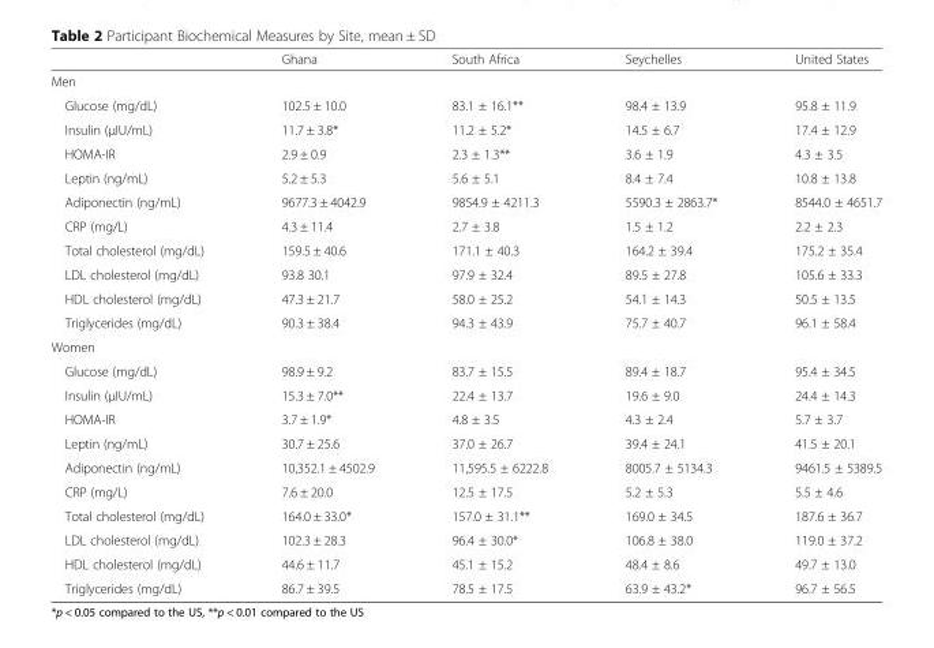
<table><thead><tr><td></td><td>Ghana</td><td>South Africa</td><td>Seychelles</td><td>United States</td></tr></thead><tbody><tr><td colspan="5">Men</td></tr><tr><td>Glucose (mg/dL)</td><td>102.5 ± 10.0</td><td>83.1 ± 16.1**</td><td>98.4 ± 13.9</td><td>95.8 ± 11.9</td></tr><tr><td>Insulin (μIU/mL)</td><td>11.7 ± 3.8*</td><td>11.2 ± 5.2*</td><td>14.5 ± 6.7</td><td>17.4 ± 12.9</td></tr><tr><td>HOMA-IR</td><td>2.9 ± 0.9</td><td>2.3 ± 1.3**</td><td>3.6 ± 1.9</td><td>4.3 ± 3.5</td></tr><tr><td>Leptin (ng/mL)</td><td>5.2 ± 5.3</td><td>5.6 ± 5.1</td><td>8.4 ± 7.4</td><td>10.8 ± 13.8</td></tr><tr><td>Adiponectin (ng/mL)</td><td>9677.3 ± 4042.9</td><td>9854.9 ± 4211.3</td><td>5590.3 ± 2863.7*</td><td>8544.0 ± 4651.7</td></tr><tr><td>CRP (mg/L)</td><td>4.3 ± 11.4</td><td>2.7 ± 3.8</td><td>1.5 ± 1.2</td><td>2.2 ± 2.3</td></tr><tr><td>Total cholesterol (mg/dL)</td><td>159.5 ± 40.6</td><td>171.1 ± 40.3</td><td>164.2 ± 39.4</td><td>175.2 ± 35.4</td></tr><tr><td>LDL cholesterol (mg/dL)</td><td>93.8 30.1</td><td>97.9 ± 32.4</td><td>89.5 ± 27.8</td><td>105.6 ± 33.3</td></tr><tr><td>HDL cholesterol (mg/dL)</td><td>47.3 ± 21.7</td><td>58.0 ± 25.2</td><td>54.1 ± 14.3</td><td>50.5 ± 13.5</td></tr><tr><td>Triglycerides (mg/dL)</td><td>90.3 ± 38.4</td><td>94.3 ± 43.9</td><td>75.7 ± 40.7</td><td>96.1 ± 58.4</td></tr><tr><td colspan="5">Women</td></tr><tr><td>Glucose (mg/dL)</td><td>98.9 ± 9.2</td><td>83.7 ± 15.5</td><td>89.4 ± 18.7</td><td>95.4 ± 34.5</td></tr><tr><td>Insulin (μIU/mL)</td><td>15.3 ± 7.0**</td><td>22.4 ± 13.7</td><td>19.6 ± 9.0</td><td>24.4 ± 14.3</td></tr><tr><td>HOMA-IR</td><td>3.7 ± 1.9*</td><td>4.8 ± 3.5</td><td>4.3 ± 2.4</td><td>5.7 ± 3.7</td></tr><tr><td>Leptin (ng/mL)</td><td>30.7 ± 25.6</td><td>37.0 ± 26.7</td><td>39.4 ± 24.1</td><td>41.5 ± 20.1</td></tr><tr><td>Adiponectin (ng/mL)</td><td>10,352.1 ± 4502.9</td><td>11,595.5 ± 6222.8</td><td>8005.7 ± 5134.3</td><td>9461.5 ± 5389.5</td></tr><tr><td>CRP (mg/L)</td><td>7.6 ± 20.0</td><td>12.5 ± 17.5</td><td>5.2 ± 5.3</td><td>5.5 ± 4.6</td></tr><tr><td>Total cholesterol (mg/dL)</td><td>164.0 ± 33.0*</td><td>157.0 ± 31.1**</td><td>169.0 ± 34.5</td><td>187.6 ± 36.7</td></tr><tr><td>LDL cholesterol (mg/dL)</td><td>102.3 ± 28.3</td><td>96.4 ± 30.0*</td><td>106.8 ± 38.0</td><td>119.0 ± 37.2</td></tr><tr><td>HDL cholesterol (mg/dL)</td><td>44.6 ± 11.7</td><td>45.1 ± 15.2</td><td>48.4 ± 8.6</td><td>49.7 ± 13.0</td></tr><tr><td>Triglycerides (mg/dL)</td><td>86.7 ± 39.5</td><td>78.5 ± 17.5</td><td>63.9 ± 43.2*</td><td>96.7 ± 56.5</td></tr></tbody></table>